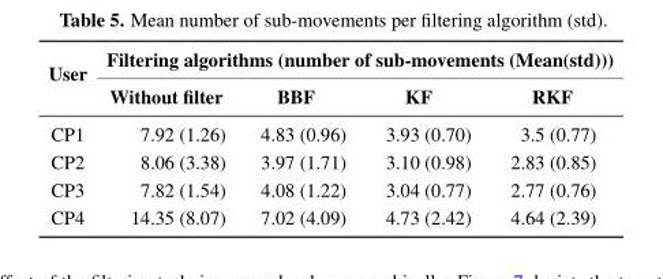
<table><thead><tr><td rowspan="2">User</td><td colspan="4">Filtering algorithms (number of sub-movements (Mean(std)))</td></tr><tr><td>Without filter</td><td>BBF</td><td>KF</td><td>RKF</td></tr></thead><tbody><tr><td>CP1</td><td>7.92 (1.26)</td><td>4.83 (0.96)</td><td>3.93 (0.70)</td><td>3.5 (0.77)</td></tr><tr><td>CP2</td><td>8.06 (3.38)</td><td>3.97 (1.71)</td><td>3.10 (0.98)</td><td>2.83 (0.85)</td></tr><tr><td>CP3</td><td>7.82 (1.54)</td><td>4.08 (1.22)</td><td>3.04 (0.77)</td><td>2.77 (0.76)</td></tr><tr><td>CP4</td><td>14.35 (8.07)</td><td>7.02 (4.09)</td><td>4.73 (2.42)</td><td>4.64 (2.39)</td></tr></tbody></table>